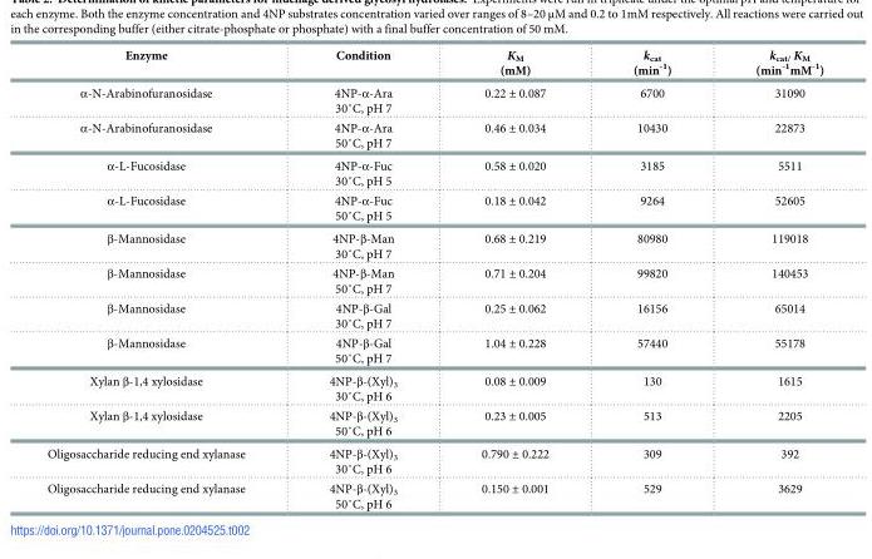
<table><thead><tr><td>Enzyme</td><td>Condition</td><td>K<sub>M</sub> (mM)</td><td>k<sub>cat</sub> (min<sup>-1</sup>)</td><td>k<sub>cat/</sub> K<sub>M</sub> (min<sup>-1</sup>mM<sup>-1</sup>)</td></tr></thead><tbody><tr><td>α-N-Arabinofuranosidase</td><td>4NP-α-Ara 30˚C, pH 7</td><td>0.22 ± 0.087</td><td>6700</td><td>31090</td></tr><tr><td>α-N-Arabinofuranosidase</td><td>4NP-α-Ara 50˚C, pH 7</td><td>0.46 ± 0.034</td><td>10430</td><td>22873</td></tr><tr><td>α-L-Fucosidase</td><td>4NP-α-Fuc 30˚C, pH 5</td><td>0.58 ± 0.020</td><td>3185</td><td>5511</td></tr><tr><td>α-L-Fucosidase</td><td>4NP-α-Fuc 50˚C, pH 5</td><td>0.18 ± 0.042</td><td>9264</td><td>52605</td></tr><tr><td>β-Mannosidase</td><td>4NP-β-Man 30˚C, pH 7</td><td>0.68 ± 0.219</td><td>80980</td><td>119018</td></tr><tr><td>β-Mannosidase</td><td>4NP-β-Man 50˚C, pH 7</td><td>0.71 ± 0.204</td><td>99820</td><td>140453</td></tr><tr><td>β-Mannosidase</td><td>4NP-β-Gal 30˚C, pH 7</td><td>0.25 ± 0.062</td><td>16156</td><td>65014</td></tr><tr><td>β-Mannosidase</td><td>4NP-β-Gal 50˚C, pH 7</td><td>1.04 ± 0.228</td><td>57440</td><td>55178</td></tr><tr><td>Xylan β-1,4 xylosidase</td><td>4NP-β-(Xyl)3 30˚C, pH 6</td><td>0.08 ± 0.009</td><td>130</td><td>1615</td></tr><tr><td>Xylan β-1,4 xylosidase</td><td>4NP-β-(Xyl)3 50˚C, pH 6</td><td>0.23 ± 0.005</td><td>513</td><td>2205</td></tr><tr><td>Oligosaccharide reducing end xylanase</td><td>4NP-β-(Xyl)3 30˚C, pH 6</td><td>0.790 ± 0.222</td><td>309</td><td>392</td></tr><tr><td>Oligosaccharide reducing end xylanase</td><td>4NP-β-(Xyl)3 50˚C, pH 6</td><td>0.150 ± 0.001</td><td>529</td><td>3629</td></tr></tbody></table>